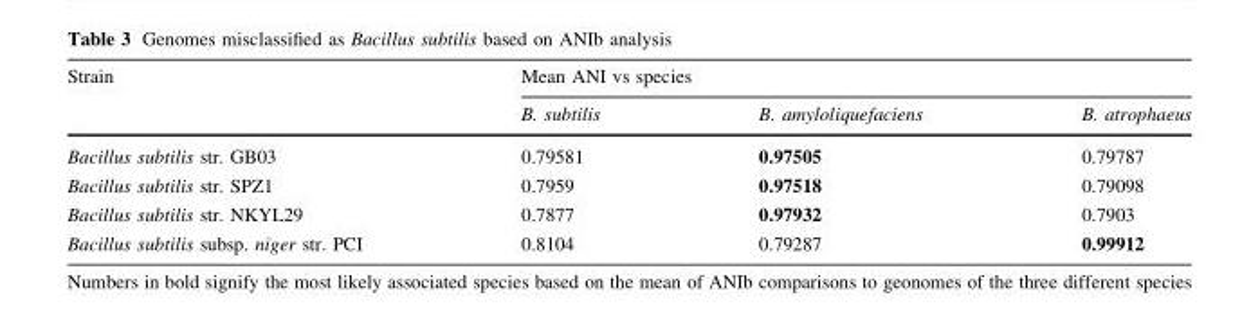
<table><thead><tr><td rowspan="2">Strain</td><td colspan="3">Mean ANI vs species</td></tr><tr><td>B. subtilis</td><td>B. amyloliquefaciens</td><td>B. atrophaeus</td></tr></thead><tbody><tr><td>Bacillus subtilis str. GB03</td><td>0.79581</td><td>0.97505</td><td>0.79787</td></tr><tr><td>Bacillus subtilis str. SPZ1</td><td>0.7959</td><td>0.97518</td><td>0.79098</td></tr><tr><td>Bacillus subtilis str. NKYL29</td><td>0.7877</td><td>0.97932</td><td>0.7903</td></tr><tr><td>Bacillus subtilis subsp. niger str. PCI</td><td>0.8104</td><td>0.79287</td><td>0.99912</td></tr></tbody></table>